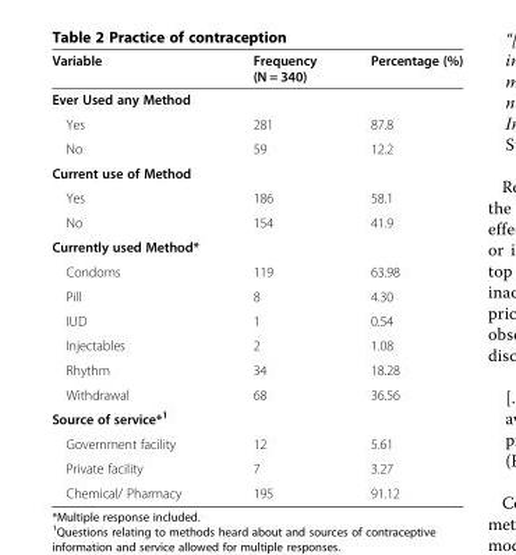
<table><thead><tr><td>Variable</td><td>Frequency (N = 340)</td><td>Percentage (%)</td></tr></thead><tbody><tr><td colspan="3">Ever Used any Method</td></tr><tr><td>Yes</td><td>281</td><td>87.8</td></tr><tr><td>No</td><td>59</td><td>12.2</td></tr><tr><td colspan="3">Current use of Method</td></tr><tr><td>Yes</td><td>186</td><td>58.1</td></tr><tr><td>No</td><td>154</td><td>41.9</td></tr><tr><td colspan="3">Currently used Method*</td></tr><tr><td>Condoms</td><td>119</td><td>63.98</td></tr><tr><td>Pill</td><td>8</td><td>4.30</td></tr><tr><td>IUD</td><td>1</td><td>0.54</td></tr><tr><td>Injectables</td><td>2</td><td>1.08</td></tr><tr><td>Rhythm</td><td>34</td><td>18.28</td></tr><tr><td>Withdrawal</td><td>68</td><td>36.56</td></tr><tr><td colspan="3">Source of service*<sup>1</sup></td></tr><tr><td>Government facility</td><td>12</td><td>5.61</td></tr><tr><td>Private facility</td><td>7</td><td>3.27</td></tr><tr><td>Chemical/ Pharmacy</td><td>195</td><td>91.12</td></tr></tbody></table>